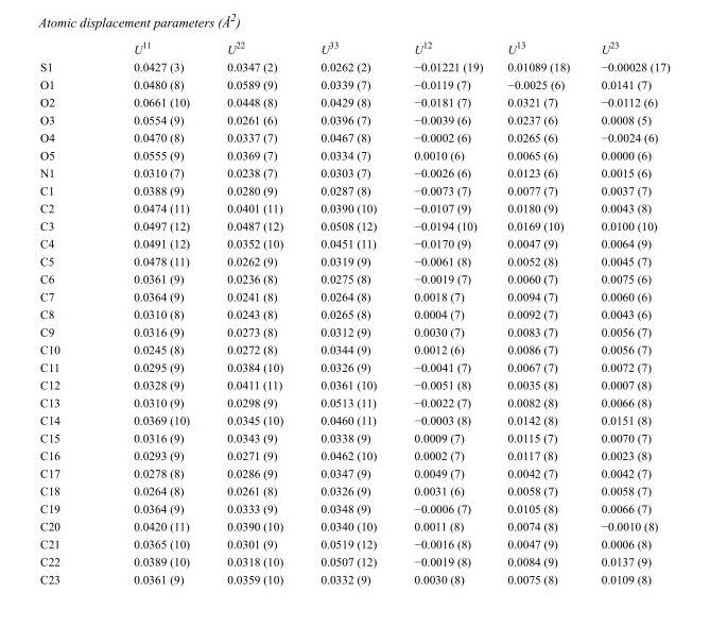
<table><thead><tr><td></td><td>U<sup>11</sup></td><td>U<sup>22</sup></td><td>U<sup>33</sup></td><td>U<sup>12</sup></td><td>U<sup>13</sup></td><td>U<sup>23</sup></td></tr></thead><tbody><tr><td>S1</td><td>0.0427 (3)</td><td>0.0347 (2)</td><td>0.0262 (2)</td><td>−0.01221 (19)</td><td>0.01089 (18)</td><td>−0.00028 (17)</td></tr><tr><td>O1</td><td>0.0480 (8)</td><td>0.0589 (9)</td><td>0.0339 (7)</td><td>−0.0119 (7)</td><td>−0.0025 (6)</td><td>0.0141 (7)</td></tr><tr><td>O2</td><td>0.0661 (10)</td><td>0.0448 (8)</td><td>0.0429 (8)</td><td>−0.0181 (7)</td><td>0.0321 (7)</td><td>−0.0112 (6)</td></tr><tr><td>O3</td><td>0.0554 (9)</td><td>0.0261 (6)</td><td>0.0396 (7)</td><td>−0.0039 (6)</td><td>0.0237 (6)</td><td>0.0008 (5)</td></tr><tr><td>O4</td><td>0.0470 (8)</td><td>0.0337 (7)</td><td>0.0467 (8)</td><td>−0.0002 (6)</td><td>0.0265 (6)</td><td>−0.0024 (6)</td></tr><tr><td>O5</td><td>0.0555 (9)</td><td>0.0369 (7)</td><td>0.0334 (7)</td><td>0.0010 (6)</td><td>0.0065 (6)</td><td>0.0000 (6)</td></tr><tr><td>N1</td><td>0.0310 (7)</td><td>0.0238 (7)</td><td>0.0303 (7)</td><td>−0.0026 (6)</td><td>0.0123 (6)</td><td>0.0015 (6)</td></tr><tr><td>C1</td><td>0.0388 (9)</td><td>0.0280 (9)</td><td>0.0287 (8)</td><td>−0.0073 (7)</td><td>0.0077 (7)</td><td>0.0037 (7)</td></tr><tr><td>C2</td><td>0.0474 (11)</td><td>0.0401 (11)</td><td>0.0390 (10)</td><td>−0.0107 (9)</td><td>0.0180 (9)</td><td>0.0043 (8)</td></tr><tr><td>C3</td><td>0.0497 (12)</td><td>0.0487 (12)</td><td>0.0508 (12)</td><td>−0.0194 (10)</td><td>0.0169 (10)</td><td>0.0100 (10)</td></tr><tr><td>C4</td><td>0.0491 (12)</td><td>0.0352 (10)</td><td>0.0451 (11)</td><td>−0.0170 (9)</td><td>0.0047 (9)</td><td>0.0064 (9)</td></tr><tr><td>C5</td><td>0.0478 (11)</td><td>0.0262 (9)</td><td>0.0319 (9)</td><td>−0.0061 (8)</td><td>0.0052 (8)</td><td>0.0045 (7)</td></tr><tr><td>C6</td><td>0.0361 (9)</td><td>0.0236 (8)</td><td>0.0275 (8)</td><td>−0.0019 (7)</td><td>0.0060 (7)</td><td>0.0075 (6)</td></tr><tr><td>C7</td><td>0.0364 (9)</td><td>0.0241 (8)</td><td>0.0264 (8)</td><td>0.0018 (7)</td><td>0.0094 (7)</td><td>0.0060 (6)</td></tr><tr><td>C8</td><td>0.0310 (8)</td><td>0.0243 (8)</td><td>0.0265 (8)</td><td>0.0004 (7)</td><td>0.0092 (7)</td><td>0.0043 (6)</td></tr><tr><td>C9</td><td>0.0316 (9)</td><td>0.0273 (8)</td><td>0.0312 (9)</td><td>0.0030 (7)</td><td>0.0083 (7)</td><td>0.0056 (7)</td></tr><tr><td>C10</td><td>0.0245 (8)</td><td>0.0272 (8)</td><td>0.0344 (9)</td><td>0.0012 (6)</td><td>0.0086 (7)</td><td>0.0056 (7)</td></tr><tr><td>C11</td><td>0.0295 (9)</td><td>0.0384 (10)</td><td>0.0326 (9)</td><td>−0.0041 (7)</td><td>0.0067 (7)</td><td>0.0072 (7)</td></tr><tr><td>C12</td><td>0.0328 (9)</td><td>0.0411 (11)</td><td>0.0361 (10)</td><td>−0.0051 (8)</td><td>0.0035 (8)</td><td>0.0007 (8)</td></tr><tr><td>C13</td><td>0.0310 (9)</td><td>0.0298 (9)</td><td>0.0513 (11)</td><td>−0.0022 (7)</td><td>0.0082 (8)</td><td>0.0066 (8)</td></tr><tr><td>C14</td><td>0.0369 (10)</td><td>0.0345 (10)</td><td>0.0460 (11)</td><td>−0.0003 (8)</td><td>0.0142 (8)</td><td>0.0151 (8)</td></tr><tr><td>C15</td><td>0.0316 (9)</td><td>0.0343 (9)</td><td>0.0338 (9)</td><td>0.0009 (7)</td><td>0.0115 (7)</td><td>0.0070 (7)</td></tr><tr><td>C16</td><td>0.0293 (9)</td><td>0.0271 (9)</td><td>0.0462 (10)</td><td>0.0002 (7)</td><td>0.0117 (8)</td><td>0.0023 (8)</td></tr><tr><td>C17</td><td>0.0278 (8)</td><td>0.0286 (9)</td><td>0.0347 (9)</td><td>0.0049 (7)</td><td>0.0042 (7)</td><td>0.0042 (7)</td></tr><tr><td>C18</td><td>0.0264 (8)</td><td>0.0261 (8)</td><td>0.0326 (9)</td><td>0.0031 (6)</td><td>0.0058 (7)</td><td>0.0058 (7)</td></tr><tr><td>C19</td><td>0.0364 (9)</td><td>0.0333 (9)</td><td>0.0348 (9)</td><td>−0.0006 (7)</td><td>0.0105 (8)</td><td>0.0066 (7)</td></tr><tr><td>C20</td><td>0.0420 (11)</td><td>0.0390 (10)</td><td>0.0340 (10)</td><td>0.0011 (8)</td><td>0.0074 (8)</td><td>−0.0010 (8)</td></tr><tr><td>C21</td><td>0.0365 (10)</td><td>0.0301 (9)</td><td>0.0519 (12)</td><td>−0.0016 (8)</td><td>0.0047 (9)</td><td>0.0006 (8)</td></tr><tr><td>C22</td><td>0.0389 (10)</td><td>0.0318 (10)</td><td>0.0507 (12)</td><td>−0.0019 (8)</td><td>0.0084 (9)</td><td>0.0137 (9)</td></tr><tr><td>C23</td><td>0.0361 (9)</td><td>0.0359 (10)</td><td>0.0332 (9)</td><td>0.0030 (8)</td><td>0.0075 (8)</td><td>0.0109 (8)</td></tr></tbody></table>